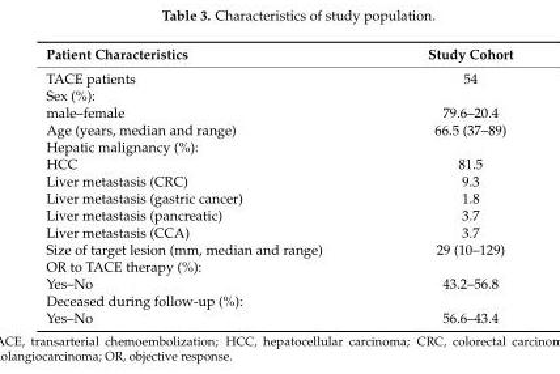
<table><thead><tr><td>Patient Characteristics</td><td>Study Cohort</td></tr></thead><tbody><tr><td>TACE patients</td><td>54</td></tr><tr><td colspan="2">Sex (%):</td></tr><tr><td>male–female</td><td>79.6–20.4</td></tr><tr><td>Age (years, median and range)</td><td>66.5 (37–89)</td></tr><tr><td colspan="2">Hepatic malignancy (%):</td></tr><tr><td>HCC</td><td>81.5</td></tr><tr><td>Liver metastasis (CRC)</td><td>9.3</td></tr><tr><td>Liver metastasis (gastric cancer)</td><td>1.8</td></tr><tr><td>Liver metastasis (pancreatic)</td><td>3.7</td></tr><tr><td>Liver metastasis (CCA)</td><td>3.7</td></tr><tr><td>Size of target lesion (mm, median and range)</td><td>29 (10–129)</td></tr><tr><td colspan="2">OR to TACE therapy (%):</td></tr><tr><td>Yes–No</td><td>43.2–56.8</td></tr><tr><td colspan="2">Deceased during follow-up (%):</td></tr><tr><td>Yes–No</td><td>56.6–43.4</td></tr></tbody></table>